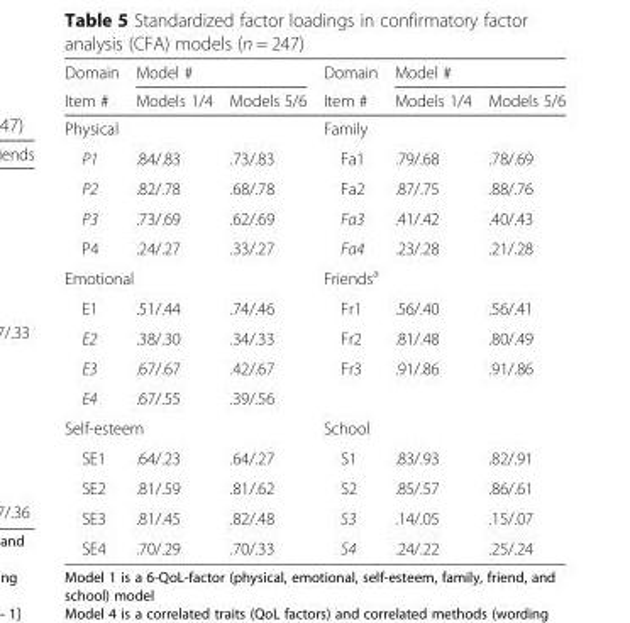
<table><thead><tr><td rowspan="2">Domain Item #</td><td colspan="2">Model #</td><td rowspan="2">Domain Item #</td><td colspan="2">Model #</td></tr><tr><td>Models 1/4</td><td>Models 5/6</td><td>Models 1/4</td><td>Models 5/6</td></tr></thead><tbody><tr><td colspan="3">Physical</td><td colspan="3">Family</td></tr><tr><td>P1</td><td>.84/.83</td><td>.73/.83</td><td>Fa1</td><td>.79/.68</td><td>.78/.69</td></tr><tr><td>P2</td><td>.82/.78</td><td>.68/.78</td><td>Fa2</td><td>.87/.75</td><td>.88/.76</td></tr><tr><td>P3</td><td>.73/.69</td><td>.62/.69</td><td>Fa3</td><td>.41/.42</td><td>.40/.43</td></tr><tr><td>P4</td><td>.24/.27</td><td>.33/.27</td><td>Fa4</td><td>.23/.28</td><td>.21/.28</td></tr><tr><td colspan="3">Emotional</td><td colspan="3">Friends<sup>a</sup></td></tr><tr><td>E1</td><td>.51/.44</td><td>.74/.46</td><td>Fr1</td><td>.56/.40</td><td>.56/.41</td></tr><tr><td>E2</td><td>.38/.30</td><td>.34/.33</td><td>Fr2</td><td>.81/.48</td><td>.80/.49</td></tr><tr><td>E3</td><td>.67/.67</td><td>.42/.67</td><td>Fr3</td><td>.91/.86</td><td>.91/.86</td></tr><tr><td>E4</td><td>.67/.55</td><td>.39/.56</td><td></td><td></td><td></td></tr><tr><td colspan="3">Self-esteem</td><td colspan="3">School</td></tr><tr><td>SE1</td><td>.64/.23</td><td>.64/.27</td><td>S1</td><td>.83/.93</td><td>.82/.91</td></tr><tr><td>SE2</td><td>.81/.59</td><td>.81/.62</td><td>S2</td><td>.85/.57</td><td>.86/.61</td></tr><tr><td>SE3</td><td>.81/.45</td><td>.82/.48</td><td>S3</td><td>.14/.05</td><td>.15/.07</td></tr><tr><td>SE4</td><td>.70/.29</td><td>.70/.33</td><td>S4</td><td>.24/.22</td><td>.25/.24</td></tr></tbody></table>